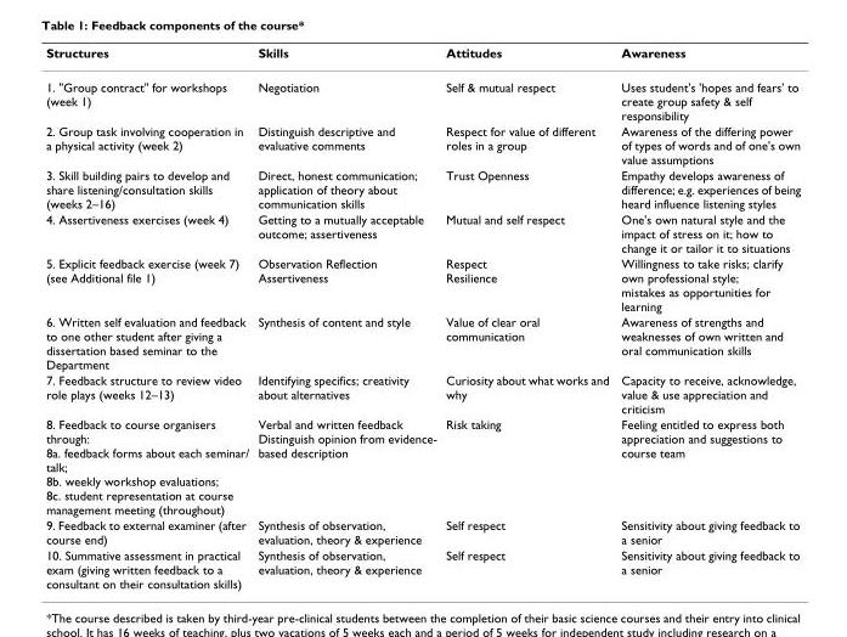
<table><thead><tr><td>Structures</td><td>Skills</td><td>Attitudes</td><td>Awareness</td></tr></thead><tbody><tr><td>1. &quot;Group contract&quot; for workshops (week 1)</td><td>Negotiation</td><td>Self &amp; mutual respect</td><td>Uses student&#x27;s &#x27;hopes and fears&#x27; to create group safety &amp; self responsibility</td></tr><tr><td>2. Group task involving cooperation in a physical activity (week 2)</td><td>Distinguish descriptive and evaluative comments</td><td>Respect for value of different roles in a group</td><td>Awareness of the differing power of types of words and of one&#x27;s own value assumptions</td></tr><tr><td>3. Skill building pairs to develop and share listening/consultation skills (weeks 2–16)</td><td>Direct, honest communication; application of theory about communication skills</td><td>Trust Openness</td><td>Empathy develops awareness of difference; e.g. experiences of being heard influence listening styles</td></tr><tr><td>4. Assertiveness exercises (week 4)</td><td>Getting to a mutually acceptable outcome; assertiveness</td><td>Mutual and self respect</td><td>One&#x27;s own natural style and the impact of stress on it; how to change it or tailor it to situations</td></tr><tr><td>5. Explicit feedback exercise (week 7) (see Additional file 1)</td><td>Observation Reflection Assertiveness</td><td>Respect Resilience</td><td>Willingness to take risks; clarify own professional style; mistakes as opportunities for learning</td></tr><tr><td>6. Written self evaluation and feedback to one other student after giving a dissertation based seminar to the Department</td><td>Synthesis of content and style</td><td>Value of clear oral communication</td><td>Awareness of strengths and weaknesses of own written and oral communication skills</td></tr><tr><td>7. Feedback structure to review video role plays (weeks 12–13)</td><td>Identifying specifics; creativity about alternatives</td><td>Curiosity about what works and why</td><td>Capacity to receive, acknowledge, value &amp; use appreciation and criticism</td></tr><tr><td>8. Feedback to course organisers through: 8a. feedback forms about each seminar/ talk; 8b. weekly workshop evaluations; 8c. student representation at course management meeting (throughout)</td><td>Verbal and written feedback Distinguish opinion from evidence- based description</td><td>Risk taking</td><td>Feeling entitled to express both appreciation and suggestions to course team</td></tr><tr><td>9. Feedback to external examiner (after course end)</td><td>Synthesis of observation, evaluation, theory &amp; experience</td><td>Self respect</td><td>Sensitivity about giving feedback to a senior</td></tr><tr><td>10. Summative assessment in practical exam (giving written feedback to a consultant on their consultation skills)</td><td>Synthesis of observation, evaluation, theory &amp; experience</td><td>Self respect</td><td>Sensitivity about giving feedback to a senior</td></tr></tbody></table>